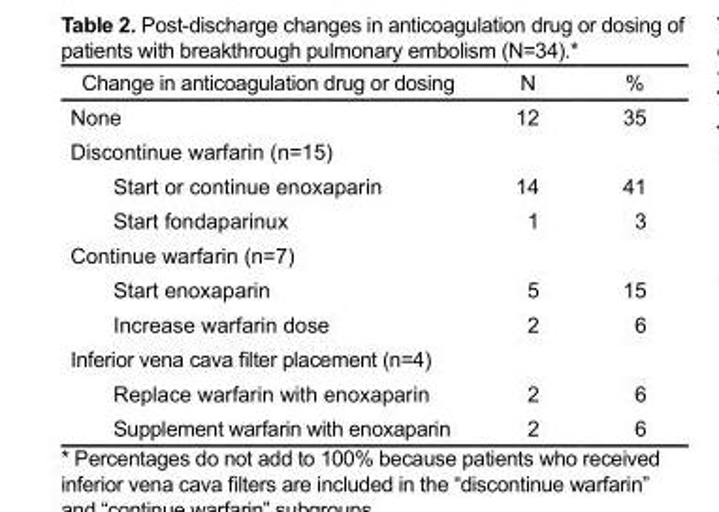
<table><thead><tr><td>Change in anticoagulation drug or dosing</td><td>N</td><td>%</td></tr></thead><tbody><tr><td>None</td><td>12</td><td>35</td></tr><tr><td colspan="3">Discontinue warfarin (n=15)</td></tr><tr><td>Start or continue enoxaparin</td><td>14</td><td>41</td></tr><tr><td>Start fondaparinux</td><td>1</td><td>3</td></tr><tr><td colspan="3">Continue warfarin (n=7)</td></tr><tr><td>Start enoxaparin</td><td>5</td><td>15</td></tr><tr><td>Increase warfarin dose</td><td>2</td><td>6</td></tr><tr><td colspan="3">Inferior vena cava filter placement (n=4)</td></tr><tr><td>Replace warfarin with enoxaparin</td><td>2</td><td>6</td></tr><tr><td>Supplement warfarin with enoxaparin</td><td>2</td><td>6</td></tr></tbody></table>